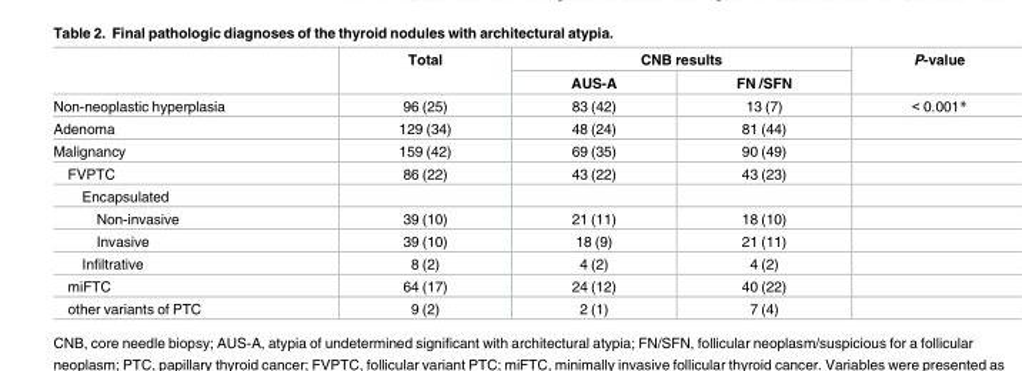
<table><thead><tr><td rowspan="2"></td><td rowspan="2">Total</td><td colspan="2">CNB results</td><td rowspan="2">P-value</td></tr><tr><td>AUS-A</td><td>FN /SFN</td></tr></thead><tbody><tr><td>Non-neoplastic hyperplasia</td><td>96 (25)</td><td>83 (42)</td><td>13 (7)</td><td>&lt; 0.001*</td></tr><tr><td>Adenoma</td><td>129 (34)</td><td>48 (24)</td><td>81 (44)</td><td></td></tr><tr><td>Malignancy</td><td>159 (42)</td><td>69 (35)</td><td>90 (49)</td><td></td></tr><tr><td>FVPTC</td><td>86 (22)</td><td>43 (22)</td><td>43 (23)</td><td></td></tr><tr><td colspan="5">Encapsulated</td></tr><tr><td>Non-invasive</td><td>39 (10)</td><td>21 (11)</td><td>18 (10)</td><td></td></tr><tr><td>Invasive</td><td>39 (10)</td><td>18 (9)</td><td>21 (11)</td><td></td></tr><tr><td>Infiltrative</td><td>8 (2)</td><td>4 (2)</td><td>4 (2)</td><td></td></tr><tr><td>miFTC</td><td>64 (17)</td><td>24 (12)</td><td>40 (22)</td><td></td></tr><tr><td>other variants of PTC</td><td>9 (2)</td><td>2 (1)</td><td>7 (4)</td><td></td></tr></tbody></table>